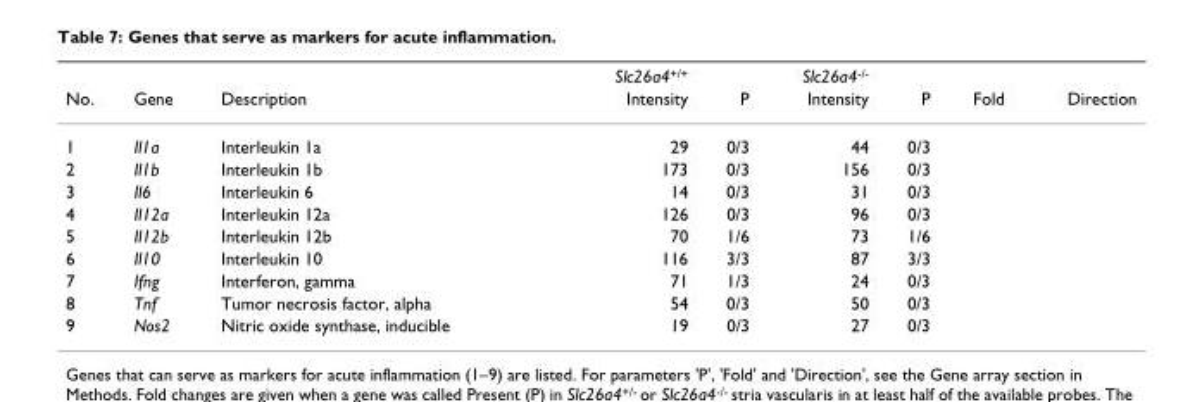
<table><thead><tr><td rowspan="2">No.</td><td rowspan="2">Gene</td><td rowspan="2">Description</td><td colspan="2">Slc26a4<sup>+/+</sup></td><td colspan="2">Slc26a4<sup>-/-</sup></td><td rowspan="2">Fold</td><td rowspan="2">Direction</td></tr><tr><td>Intensity</td><td>P</td><td>Intensity</td><td>P</td></tr></thead><tbody><tr><td>1</td><td>Il1a</td><td>Interleukin 1a</td><td>29</td><td>0/3</td><td>44</td><td>0/3</td><td></td><td></td></tr><tr><td>2</td><td>Il1b</td><td>Interleukin 1b</td><td>173</td><td>0/3</td><td>156</td><td>0/3</td><td></td><td></td></tr><tr><td>3</td><td>Il6</td><td>Interleukin 6</td><td>14</td><td>0/3</td><td>31</td><td>0/3</td><td></td><td></td></tr><tr><td>4</td><td>Il12a</td><td>Interleukin 12a</td><td>126</td><td>0/3</td><td>96</td><td>0/3</td><td></td><td></td></tr><tr><td>5</td><td>Il12b</td><td>Interleukin 12b</td><td>70</td><td>1/6</td><td>73</td><td>1/6</td><td></td><td></td></tr><tr><td>6</td><td>Il10</td><td>Interleukin 10</td><td>116</td><td>3/3</td><td>87</td><td>3/3</td><td></td><td></td></tr><tr><td>7</td><td>Ifng</td><td>Interferon, gamma</td><td>71</td><td>1/3</td><td>24</td><td>0/3</td><td></td><td></td></tr><tr><td>8</td><td>Tnf</td><td>Tumor necrosis factor, alpha</td><td>54</td><td>0/3</td><td>50</td><td>0/3</td><td></td><td></td></tr><tr><td>9</td><td>Nos2</td><td>Nitric oxide synthase, inducible</td><td>19</td><td>0/3</td><td>27</td><td>0/3</td><td></td><td></td></tr></tbody></table>